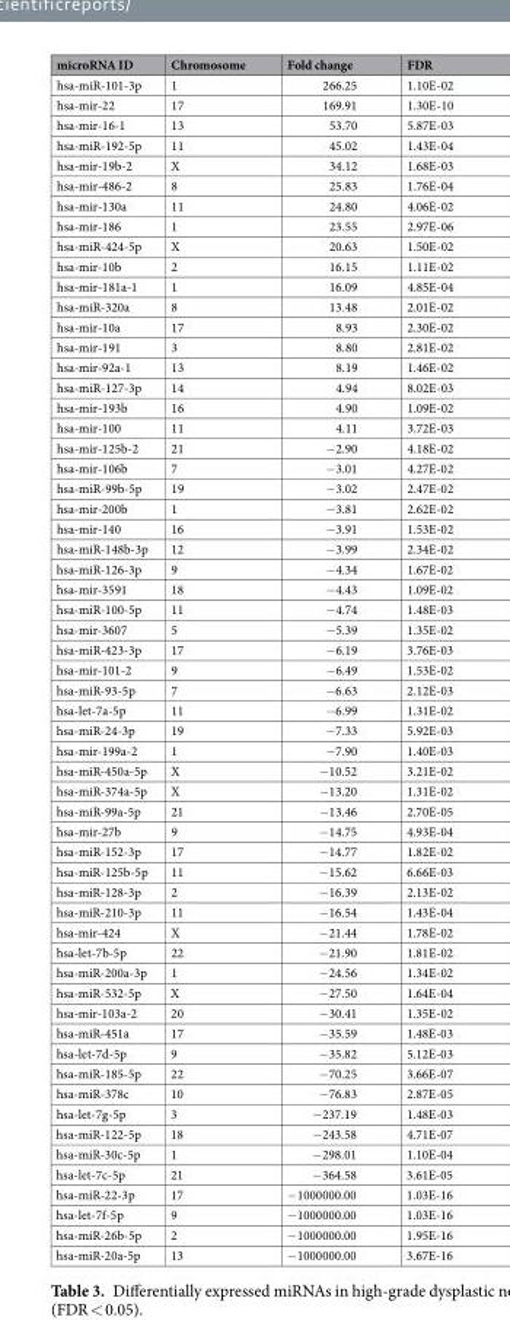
<table><thead><tr><td>microRNA ID</td><td>Chromosome</td><td>Fold change</td><td>FDR</td></tr></thead><tbody><tr><td>hsa-miR-101-3p</td><td>1</td><td>266.25</td><td>1.10E-02</td></tr><tr><td>hsa-mir-22</td><td>17</td><td>169.91</td><td>1.30E-10</td></tr><tr><td>hsa-mir-16-1</td><td>13</td><td>53.70</td><td>5.87E-03</td></tr><tr><td>hsa-miR-192-5p</td><td>11</td><td>45.02</td><td>1.43E-04</td></tr><tr><td>hsa-mir-19b-2</td><td>X</td><td>34.12</td><td>1.68E-03</td></tr><tr><td>hsa-mir-486-2</td><td>8</td><td>25.83</td><td>1.76E-04</td></tr><tr><td>hsa-mir-130a</td><td>11</td><td>24.80</td><td>4.06E-02</td></tr><tr><td>hsa-mir-186</td><td>1</td><td>23.55</td><td>2.97E-06</td></tr><tr><td>hsa-miR-424-5p</td><td>X</td><td>20.63</td><td>1.50E-02</td></tr><tr><td>hsa-mir-10b</td><td>2</td><td>16.15</td><td>1.11E-02</td></tr><tr><td>hsa-mir-181a-1</td><td>1</td><td>16.09</td><td>4.85E-04</td></tr><tr><td>hsa-miR-320a</td><td>8</td><td>13.48</td><td>2.01E-02</td></tr><tr><td>hsa-mir-10a</td><td>17</td><td>8.93</td><td>2.30E-02</td></tr><tr><td>hsa-mir-191</td><td>3</td><td>8.80</td><td>2.81E-02</td></tr><tr><td>hsa-mir-92a-1</td><td>13</td><td>8.19</td><td>1.46E-02</td></tr><tr><td>hsa-miR-127-3p</td><td>14</td><td>4.94</td><td>8.02E-03</td></tr><tr><td>hsa-mir-193b</td><td>16</td><td>4.90</td><td>1.09E-02</td></tr><tr><td>hsa-mir-100</td><td>11</td><td>4.11</td><td>3.72E-03</td></tr><tr><td>hsa-mir-125b-2</td><td>21</td><td>−2.90</td><td>4.18E-02</td></tr><tr><td>hsa-mir-106b</td><td>7</td><td>−3.01</td><td>4.27E-02</td></tr><tr><td>hsa-miR-99b-5p</td><td>19</td><td>−3.02</td><td>2.47E-02</td></tr><tr><td>hsa-mir-200b</td><td>1</td><td>−3.81</td><td>2.62E-02</td></tr><tr><td>hsa-mir-140</td><td>16</td><td>−3.91</td><td>1.53E-02</td></tr><tr><td>hsa-miR-148b-3p</td><td>12</td><td>−3.99</td><td>2.34E-02</td></tr><tr><td>hsa-miR-126-3p</td><td>9</td><td>−4.34</td><td>1.67E-02</td></tr><tr><td>hsa-mir-3591</td><td>18</td><td>−4.43</td><td>1.09E-02</td></tr><tr><td>hsa-miR-100-5p</td><td>11</td><td>−4.74</td><td>1.48E-03</td></tr><tr><td>hsa-mir-3607</td><td>5</td><td>−5.39</td><td>1.35E-02</td></tr><tr><td>hsa-miR-423-3p</td><td>17</td><td>−6.19</td><td>3.76E-03</td></tr><tr><td>hsa-mir-101-2</td><td>9</td><td>−6.49</td><td>1.53E-02</td></tr><tr><td>hsa-miR-93-5p</td><td>7</td><td>−6.63</td><td>2.12E-03</td></tr><tr><td>hsa-let-7a-5p</td><td>11</td><td>−6.99</td><td>1.31E-02</td></tr><tr><td>hsa-miR-24-3p</td><td>19</td><td>−7.33</td><td>5.92E-03</td></tr><tr><td>hsa-mir-199a-2</td><td>1</td><td>−7.90</td><td>1.40E-03</td></tr><tr><td>hsa-miR-450a-5p</td><td>X</td><td>−10.52</td><td>3.21E-02</td></tr><tr><td>hsa-miR-374a-5p</td><td>X</td><td>−13.20</td><td>1.31E-02</td></tr><tr><td>hsa-miR-99a-5p</td><td>21</td><td>−13.46</td><td>2.70E-05</td></tr><tr><td>hsa-mir-27b</td><td>9</td><td>−14.75</td><td>4.93E-04</td></tr><tr><td>hsa-miR-152-3p</td><td>17</td><td>−14.77</td><td>1.82E-02</td></tr><tr><td>hsa-miR-125b-5p</td><td>11</td><td>−15.62</td><td>6.66E-03</td></tr><tr><td>hsa-miR-128-3p</td><td>2</td><td>−16.39</td><td>2.13E-02</td></tr><tr><td>hsa-miR-210-3p</td><td>11</td><td>−16.54</td><td>1.43E-04</td></tr><tr><td>hsa-mir-424</td><td>X</td><td>−21.44</td><td>1.78E-02</td></tr><tr><td>hsa-let-7b-5p</td><td>22</td><td>−21.90</td><td>1.81E-02</td></tr><tr><td>hsa-miR-200a-3p</td><td>1</td><td>−24.56</td><td>1.34E-02</td></tr><tr><td>hsa-miR-532-5p</td><td>X</td><td>−27.50</td><td>1.64E-04</td></tr><tr><td>hsa-mir-103a-2</td><td>20</td><td>−30.41</td><td>1.35E-02</td></tr><tr><td>hsa-miR-451a</td><td>17</td><td>−35.59</td><td>1.48E-03</td></tr><tr><td>hsa-let-7d-5p</td><td>9</td><td>−35.82</td><td>5.12E-03</td></tr><tr><td>hsa-miR-185-5p</td><td>22</td><td>−70.25</td><td>3.66E-07</td></tr><tr><td>hsa-miR-378c</td><td>10</td><td>−76.83</td><td>2.87E-05</td></tr><tr><td>hsa-let-7g-5p</td><td>3</td><td>−237.19</td><td>1.48E-03</td></tr><tr><td>hsa-miR-122-5p</td><td>18</td><td>−243.58</td><td>4.71E-07</td></tr><tr><td>hsa-miR-30c-5p</td><td>1</td><td>−298.01</td><td>1.10E-04</td></tr><tr><td>hsa-let-7c-5p</td><td>21</td><td>−364.58</td><td>3.61E-05</td></tr><tr><td>hsa-miR-22-3p</td><td>17</td><td>−1000000.00</td><td>1.03E-16</td></tr><tr><td>hsa-let-7f-5p</td><td>9</td><td>−1000000.00</td><td>1.03E-16</td></tr><tr><td>hsa-miR-26b-5p</td><td>2</td><td>−1000000.00</td><td>1.95E-16</td></tr><tr><td>hsa-miR-20a-5p</td><td>13</td><td>−1000000.00</td><td>3.67E-16</td></tr></tbody></table>